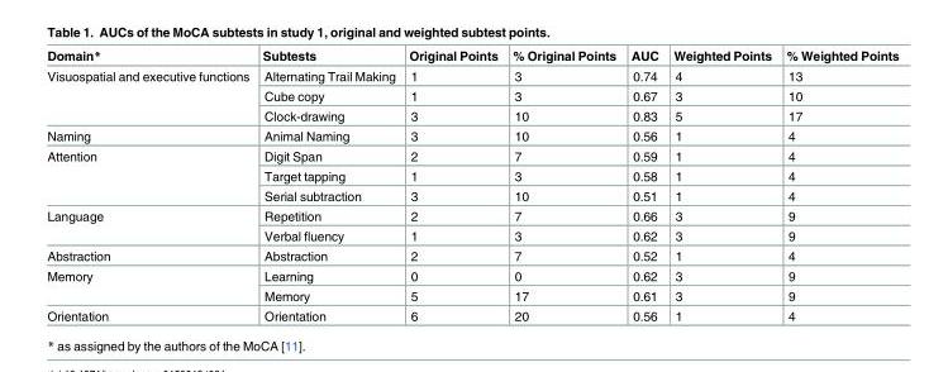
<table><thead><tr><td>Domain*</td><td>Subtests</td><td>Original Points</td><td>% Original Points</td><td>AUC</td><td>Weighted Points</td><td>% Weighted Points</td></tr></thead><tbody><tr><td rowspan="3">Visuospatial and executive functions</td><td>Alternating Trail Making</td><td>1</td><td>3</td><td>0.74</td><td>4</td><td>13</td></tr><tr><td>Cube copy</td><td>1</td><td>3</td><td>0.67</td><td>3</td><td>10</td></tr><tr><td>Clock-drawing</td><td>3</td><td>10</td><td>0.83</td><td>5</td><td>17</td></tr><tr><td>Naming</td><td>Animal Naming</td><td>3</td><td>10</td><td>0.56</td><td>1</td><td>4</td></tr><tr><td rowspan="3">Attention</td><td>Digit Span</td><td>2</td><td>7</td><td>0.59</td><td>1</td><td>4</td></tr><tr><td>Target tapping</td><td>1</td><td>3</td><td>0.58</td><td>1</td><td>4</td></tr><tr><td>Serial subtraction</td><td>3</td><td>10</td><td>0.51</td><td>1</td><td>4</td></tr><tr><td rowspan="2">Language</td><td>Repetition</td><td>2</td><td>7</td><td>0.66</td><td>3</td><td>9</td></tr><tr><td>Verbal fluency</td><td>1</td><td>3</td><td>0.62</td><td>3</td><td>9</td></tr><tr><td>Abstraction</td><td>Abstraction</td><td>2</td><td>7</td><td>0.52</td><td>1</td><td>4</td></tr><tr><td rowspan="2">Memory</td><td>Learning</td><td>0</td><td>0</td><td>0.62</td><td>3</td><td>9</td></tr><tr><td>Memory</td><td>5</td><td>17</td><td>0.61</td><td>3</td><td>9</td></tr><tr><td>Orientation</td><td>Orientation</td><td>6</td><td>20</td><td>0.56</td><td>1</td><td>4</td></tr></tbody></table>